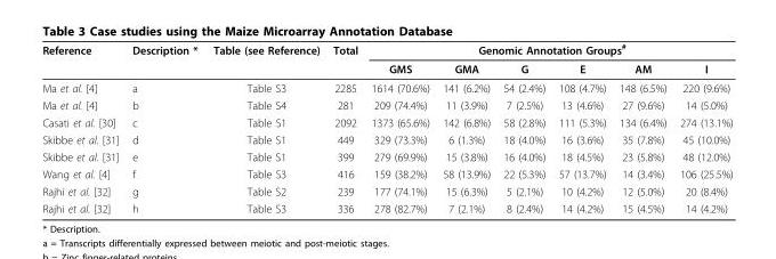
<table><thead><tr><td rowspan="2">Reference</td><td rowspan="2">Description *</td><td rowspan="2">Table (see Reference)</td><td rowspan="2">Total</td><td colspan="6">Genomic Annotation Groups<sup>#</sup></td></tr><tr><td>GMS</td><td>GMA</td><td>G</td><td>E</td><td>AM</td><td>I</td></tr></thead><tbody><tr><td>Ma et al. [4]</td><td>a</td><td>Table S3</td><td>2285</td><td>1614 (70.6%)</td><td>141 (6.2%)</td><td>54 (2.4%)</td><td>108 (4.7%)</td><td>148 (6.5%)</td><td>220 (9.6%)</td></tr><tr><td>Ma et al. [4]</td><td>b</td><td>Table S4</td><td>281</td><td>209 (74.4%)</td><td>11 (3.9%)</td><td>7 (2.5%)</td><td>13 (4.6%)</td><td>27 (9.6%)</td><td>14 (5.0%)</td></tr><tr><td>Casati et al. [30]</td><td>c</td><td>Table S1</td><td>2092</td><td>1373 (65.6%)</td><td>142 (6.8%)</td><td>58 (2.8%)</td><td>111 (5.3%)</td><td>134 (6.4%)</td><td>274 (13.1%)</td></tr><tr><td>Skibbe et al. [31]</td><td>d</td><td>Table S1</td><td>449</td><td>329 (73.3%)</td><td>6 (1.3%)</td><td>18 (4.0%)</td><td>16 (3.6%)</td><td>35 (7.8%)</td><td>45 (10.0%)</td></tr><tr><td>Skibbe et al. [31]</td><td>e</td><td>Table S1</td><td>399</td><td>279 (69.9%)</td><td>15 (3.8%)</td><td>16 (4.0%)</td><td>18 (4.5%)</td><td>23 (5.8%)</td><td>48 (12.0%)</td></tr><tr><td>Wang et al. [4]</td><td>f</td><td>Table S3</td><td>416</td><td>159 (38.2%)</td><td>58 (13.9%)</td><td>22 (5.3%)</td><td>57 (13.7%)</td><td>14 (3.4%)</td><td>106 (25.5%)</td></tr><tr><td>Rajhi et al. [32]</td><td>g</td><td>Table S2</td><td>239</td><td>177 (74.1%)</td><td>15 (6.3%)</td><td>5 (2.1%)</td><td>10 (4.2%)</td><td>12 (5.0%)</td><td>20 (8.4%)</td></tr><tr><td>Rajhi et al. [32]</td><td>h</td><td>Table S3</td><td>336</td><td>278 (82.7%)</td><td>7 (2.1%)</td><td>8 (2.4%)</td><td>14 (4.2%)</td><td>15 (4.5%)</td><td>14 (4.2%)</td></tr></tbody></table>